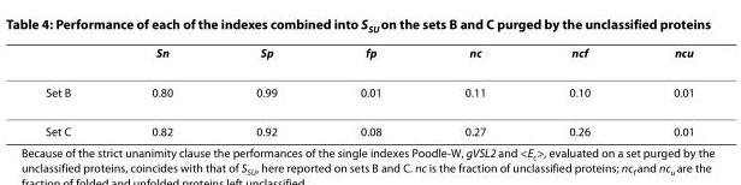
<table><thead><tr><td></td><td>S<sub>n</sub></td><td>S<sub>p</sub></td><td>f<sub>p</sub></td><td>nc</td><td>nc<sub>f</sub></td><td>nc<sub>u</sub></td></tr></thead><tbody><tr><td>Set B</td><td>0.80</td><td>0.99</td><td>0.01</td><td>0.11</td><td>0.10</td><td>0.01</td></tr><tr><td>Set C</td><td>0.82</td><td>0.92</td><td>0.08</td><td>0.27</td><td>0.26</td><td>0.01</td></tr></tbody></table>